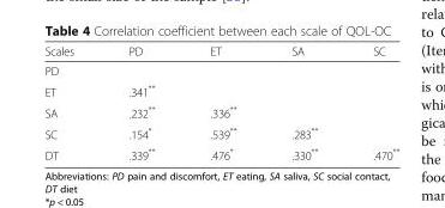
<table><thead><tr><td>Scales</td><td>PD</td><td>ET</td><td>SA</td><td>SC</td></tr></thead><tbody><tr><td colspan="5">PD</td></tr><tr><td>ET</td><td>.341**</td><td></td><td></td><td></td></tr><tr><td>SA</td><td>.232**</td><td>.336**</td><td></td><td></td></tr><tr><td>SC</td><td>.154*</td><td>.539**</td><td>.283**</td><td></td></tr><tr><td>DT</td><td>.339**</td><td>.476*</td><td>.330**</td><td>.470**</td></tr></tbody></table>